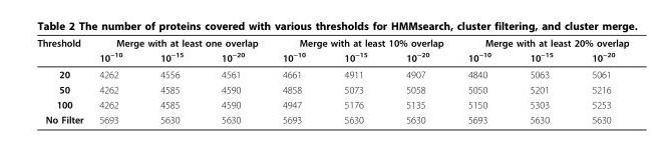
<table><thead><tr><td rowspan="2">Threshold</td><td colspan="3">Merge with at least one overlap</td><td colspan="3">Merge with at least 10% overlap</td><td colspan="3">Merge with at least 20% overlap</td></tr><tr><td>10<sup>−10</sup></td><td>10<sup>−15</sup></td><td>10<sup>−20</sup></td><td>10<sup>−10</sup></td><td>10<sup>−15</sup></td><td>10<sup>−20</sup></td><td>10<sup>−10</sup></td><td>10<sup>−15</sup></td><td>10<sup>−20</sup></td></tr></thead><tbody><tr><td>20</td><td>4262</td><td>4556</td><td>4561</td><td>4661</td><td>4911</td><td>4907</td><td>4840</td><td>5063</td><td>5061</td></tr><tr><td>50</td><td>4262</td><td>4585</td><td>4590</td><td>4858</td><td>5073</td><td>5058</td><td>5050</td><td>5201</td><td>5216</td></tr><tr><td>100</td><td>4262</td><td>4585</td><td>4590</td><td>4947</td><td>5176</td><td>5135</td><td>5150</td><td>5303</td><td>5253</td></tr><tr><td>No Filter</td><td>5693</td><td>5630</td><td>5630</td><td>5693</td><td>5630</td><td>5630</td><td>5693</td><td>5630</td><td>5630</td></tr></tbody></table>